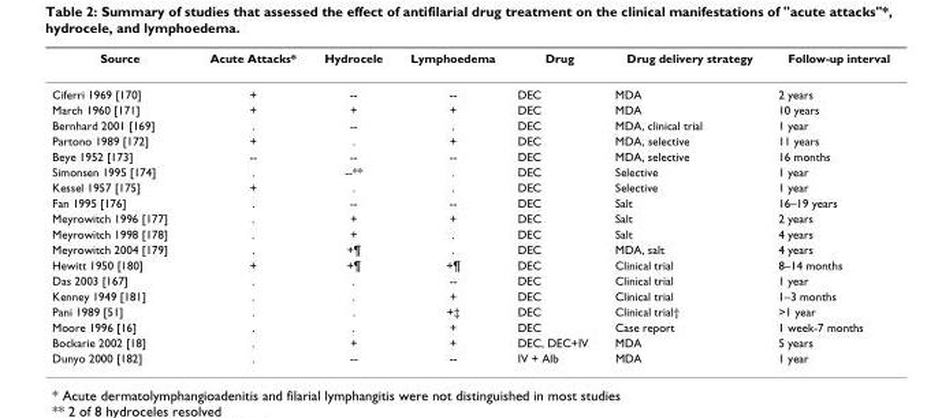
<table><thead><tr><td>Source</td><td>Acute Attacks*</td><td>Hydrocele</td><td>Lymphoedema</td><td>Drug</td><td>Drug delivery strategy</td><td>Follow-up interval</td></tr></thead><tbody><tr><td>Ciferri 1969 [170]</td><td>+</td><td>--</td><td>--</td><td>DEC</td><td>MDA</td><td>2 years</td></tr><tr><td>March 1960 [171]</td><td>+</td><td>+</td><td>+</td><td>DEC</td><td>MDA</td><td>10 years</td></tr><tr><td>Bernhard 2001 [169]</td><td>.</td><td>--</td><td>.</td><td>DEC</td><td>MDA, clinical trial</td><td>1 year</td></tr><tr><td>Partono 1989 [172]</td><td>+</td><td>.</td><td>+</td><td>DEC</td><td>MDA, selective</td><td>11 years</td></tr><tr><td>Beye 1952 [173]</td><td>--</td><td>--</td><td>--</td><td>DEC</td><td>MDA, selective</td><td>16 months</td></tr><tr><td>Simonsen 1995 [174]</td><td>.</td><td>--**</td><td>.</td><td>DEC</td><td>Selective</td><td>1 year</td></tr><tr><td>Kessel 1957 [175]</td><td>+</td><td>.</td><td>.</td><td>DEC</td><td>Selective</td><td>1 year</td></tr><tr><td>Fan 1995 [176]</td><td>.</td><td>--</td><td>--</td><td>DEC</td><td>Salt</td><td>16–19 years</td></tr><tr><td>Meyrowitch 1996 [177]</td><td>.</td><td>+</td><td>+</td><td>DEC</td><td>Salt</td><td>2 years</td></tr><tr><td>Meyrowitch 1998 [178]</td><td>.</td><td>+</td><td>.</td><td>DEC</td><td>Salt</td><td>4 years</td></tr><tr><td>Meyrowitch 2004 [179]</td><td>.</td><td>+¶</td><td>.</td><td>DEC</td><td>MDA, salt</td><td>4 years</td></tr><tr><td>Hewitt 1950 [180]</td><td>+</td><td>+¶</td><td>+¶</td><td>DEC</td><td>Clinical trial</td><td>8–14 months</td></tr><tr><td>Das 2003 [167]</td><td>.</td><td>.</td><td>--</td><td>DEC</td><td>Clinical trial</td><td>1 year</td></tr><tr><td>Kenney 1949 [181]</td><td>.</td><td>.</td><td>+</td><td>DEC</td><td>Clinical trial</td><td>1–3 months</td></tr><tr><td>Pani 1989 [51]</td><td>.</td><td>.</td><td>+‡</td><td>DEC</td><td>Clinical trial†</td><td>&gt;1 year</td></tr><tr><td>Moore 1996 [16]</td><td>.</td><td>.</td><td>+</td><td>DEC</td><td>Case report</td><td>1 week-7 months</td></tr><tr><td>Bockarie 2002 [18]</td><td>.</td><td>+</td><td>+</td><td>DEC, DEC+IV</td><td>MDA</td><td>5 years</td></tr><tr><td>Dunyo 2000 [182]</td><td>.</td><td>--</td><td>--</td><td>IV + Alb</td><td>MDA</td><td>1 year</td></tr></tbody></table>